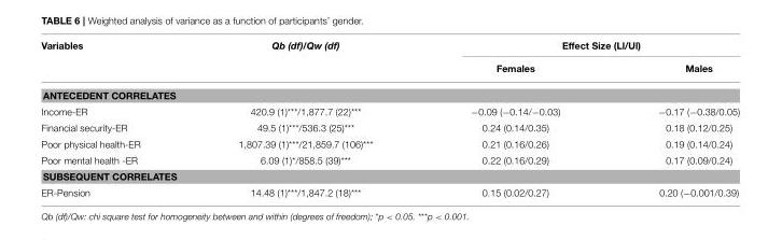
<table><thead><tr><td rowspan="2">Variables</td><td rowspan="2">Qb (df)/Qw (df)</td><td colspan="2">Effect Size (Ll/Ul)</td></tr><tr><td>Females</td><td>Males</td></tr></thead><tbody><tr><td colspan="4">ANTECEDENT CORRELATES</td></tr><tr><td>Income-ER</td><td>420.9 (1)***/1,877.7 (22)***</td><td>−0.09 (−0.14/−0.03)</td><td>−0.17 (−0.38/0.05)</td></tr><tr><td>Financial security-ER</td><td>49.5 (1)***/536.3 (25)***</td><td>0.24 (0.14/0.35)</td><td>0.18 (0.12/0.25)</td></tr><tr><td>Poor physical health-ER</td><td>1,807.39 (1)***/21,859.7 (106)***</td><td>0.21 (0.16/0.26)</td><td>0.19 (0.14/0.24)</td></tr><tr><td>Poor mental health -ER</td><td>6.09 (1)*/858.5 (39)***</td><td>0.22 (0.16/0.29)</td><td>0.17 (0.09/0.24)</td></tr><tr><td colspan="4">SUBSEQUENT CORRELATES</td></tr><tr><td>ER-Pension</td><td>14.48 (1)***/1,847.2 (18)***</td><td>0.15 (0.02/0.27)</td><td>0.20 (−0.001/0.39)</td></tr></tbody></table>